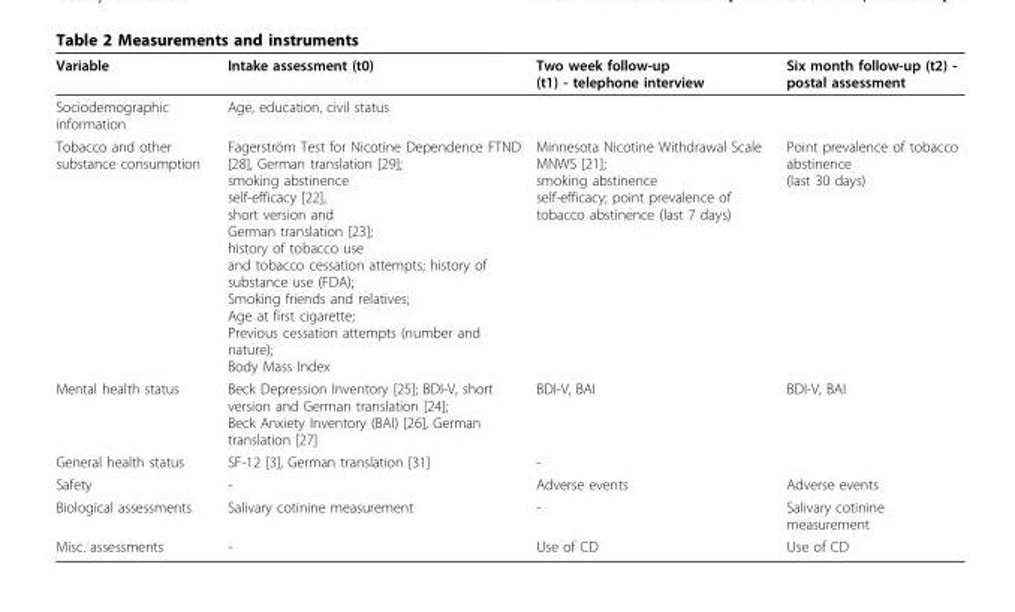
<table><thead><tr><td>Variable</td><td>Intake assessment (t0)</td><td>Two week follow-up (t1) - telephone interview</td><td>Six month follow-up (t2) - postal assessment</td></tr></thead><tbody><tr><td>Sociodemographic information</td><td>Age, education, civil status</td><td></td><td></td></tr><tr><td>Tobacco and other substance consumption</td><td>Fagerström Test for Nicotine Dependence FTND [28], German translation [29]; smoking abstinence self-efficacy [22], short version and German translation [23]; history of tobacco use and tobacco cessation attempts; history of substance use (FDA); Smoking friends and relatives; Age at first cigarette; Previous cessation attempts (number and nature); Body Mass Index</td><td>Minnesota Nicotine Withdrawal Scale MNWS [21]; smoking abstinence self-efficacy; point prevalence of tobacco abstinence (last 7 days)</td><td>Point prevalence of tobacco abstinence (last 30 days)</td></tr><tr><td>Mental health status</td><td>Beck Depression Inventory [25]; BDI-V, short version and German translation [24]; Beck Anxiety Inventory (BAI) [26], German translation [27]</td><td>BDI-V, BAI</td><td>BDI-V, BAI</td></tr><tr><td>General health status</td><td>SF-12 [3], German translation [31]</td><td>-</td><td></td></tr><tr><td>Safety</td><td>-</td><td>Adverse events</td><td>Adverse events</td></tr><tr><td>Biological assessments</td><td>Salivary cotinine measurement</td><td>-</td><td>Salivary cotinine measurement</td></tr><tr><td>Misc. assessments</td><td>-</td><td>Use of CD</td><td>Use of CD</td></tr></tbody></table>